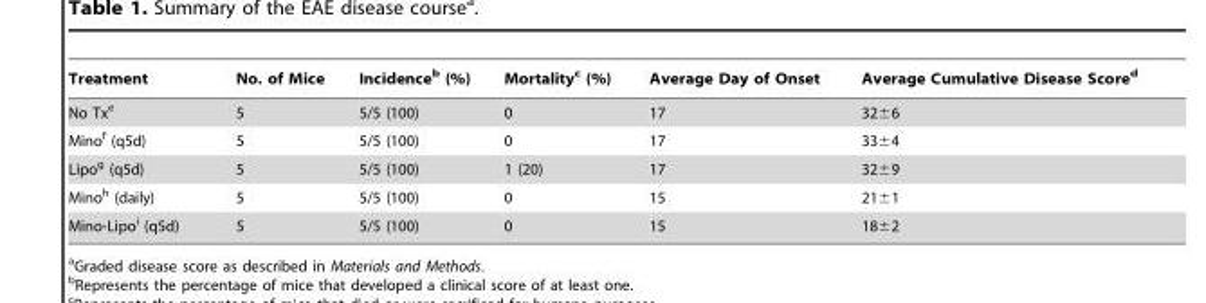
<table><thead><tr><td>Treatment</td><td>No. of Mice</td><td>Incidence<sup>b</sup> (%)</td><td>Mortality<sup>c</sup> (%)</td><td>Average Day of Onset</td><td>Average Cumulative Disease Score<sup>d</sup></td></tr></thead><tbody><tr><td>No Tx<sup>e</sup></td><td>5</td><td>5/5 (100)</td><td>0</td><td>17</td><td>32±6</td></tr><tr><td>Mino<sup>f</sup> (q5d)</td><td>5</td><td>5/5 (100)</td><td>0</td><td>17</td><td>33±4</td></tr><tr><td>Lipo<sup>g</sup> (q5d)</td><td>5</td><td>5/5 (100)</td><td>1 (20)</td><td>17</td><td>32±9</td></tr><tr><td>Mino<sup>h</sup> (daily)</td><td>5</td><td>5/5 (100)</td><td>0</td><td>15</td><td>21±1</td></tr><tr><td>Mino-Lipo<sup>i</sup> (q5d)</td><td>5</td><td>5/5 (100)</td><td>0</td><td>15</td><td>18±2</td></tr></tbody></table>